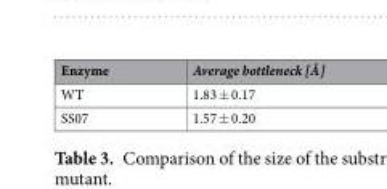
<table><thead><tr><td>Enzyme</td><td>Average bottleneck [Å]</td></tr></thead><tbody><tr><td>WT</td><td>1.83 ± 0.17</td></tr><tr><td>SS07</td><td>1.57 ± 0.20</td></tr></tbody></table>